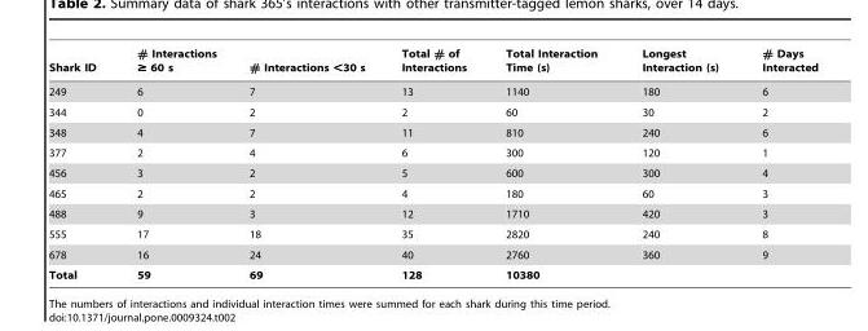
<table><thead><tr><td>Shark ID</td><td># Interactions ≥ 60 s</td><td># Interactions &lt;30 s</td><td>Total # of Interactions</td><td>Total Interaction Time (s)</td><td>Longest Interaction (s)</td><td># Days Interacted</td></tr></thead><tbody><tr><td>249</td><td>6</td><td>7</td><td>13</td><td>1140</td><td>180</td><td>6</td></tr><tr><td>344</td><td>0</td><td>2</td><td>2</td><td>60</td><td>30</td><td>2</td></tr><tr><td>348</td><td>4</td><td>7</td><td>11</td><td>810</td><td>240</td><td>6</td></tr><tr><td>377</td><td>2</td><td>4</td><td>6</td><td>300</td><td>120</td><td>1</td></tr><tr><td>456</td><td>3</td><td>2</td><td>5</td><td>600</td><td>300</td><td>4</td></tr><tr><td>465</td><td>2</td><td>2</td><td>4</td><td>180</td><td>60</td><td>3</td></tr><tr><td>488</td><td>9</td><td>3</td><td>12</td><td>1710</td><td>420</td><td>3</td></tr><tr><td>555</td><td>17</td><td>18</td><td>35</td><td>2820</td><td>240</td><td>8</td></tr><tr><td>678</td><td>16</td><td>24</td><td>40</td><td>2760</td><td>360</td><td>9</td></tr><tr><td>Total</td><td>59</td><td>69</td><td>128</td><td>10380</td><td></td><td></td></tr></tbody></table>